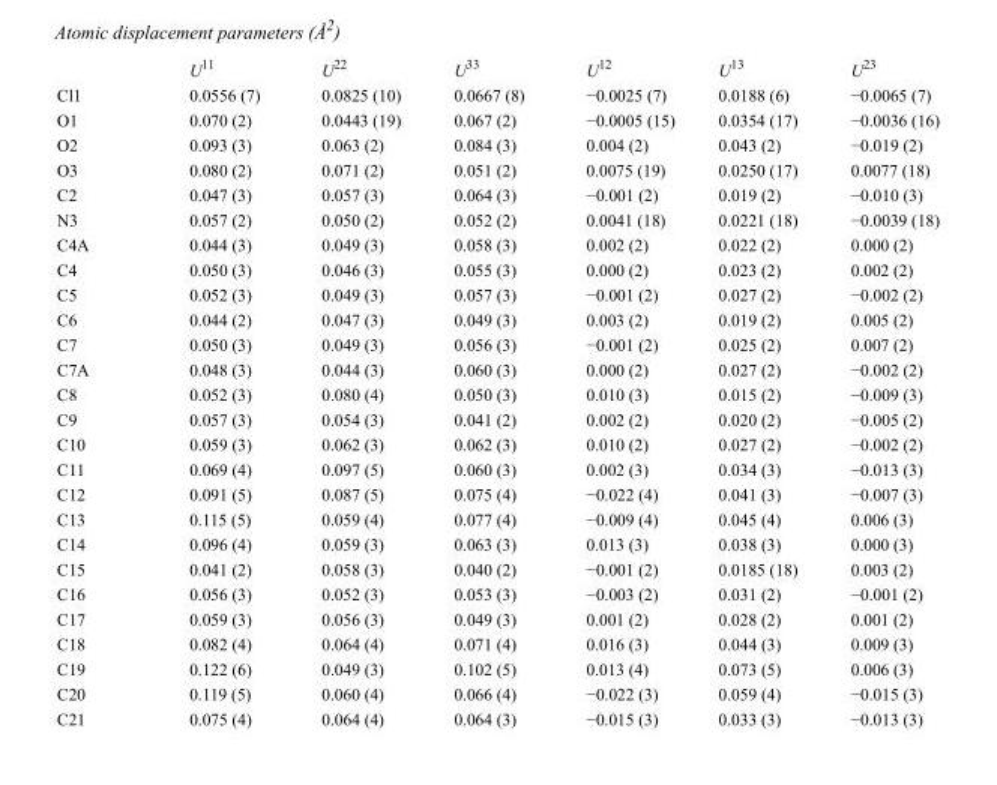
<table><thead><tr><td></td><td>U<sup>11</sup></td><td>U<sup>22</sup></td><td>U<sup>33</sup></td><td>U<sup>12</sup></td><td>U<sup>13</sup></td><td>U<sup>23</sup></td></tr></thead><tbody><tr><td>Cl1</td><td>0.0556 (7)</td><td>0.0825 (10)</td><td>0.0667 (8)</td><td>−0.0025 (7)</td><td>0.0188 (6)</td><td>−0.0065 (7)</td></tr><tr><td>O1</td><td>0.070 (2)</td><td>0.0443 (19)</td><td>0.067 (2)</td><td>−0.0005 (15)</td><td>0.0354 (17)</td><td>−0.0036 (16)</td></tr><tr><td>O2</td><td>0.093 (3)</td><td>0.063 (2)</td><td>0.084 (3)</td><td>0.004 (2)</td><td>0.043 (2)</td><td>−0.019 (2)</td></tr><tr><td>O3</td><td>0.080 (2)</td><td>0.071 (2)</td><td>0.051 (2)</td><td>0.0075 (19)</td><td>0.0250 (17)</td><td>0.0077 (18)</td></tr><tr><td>C2</td><td>0.047 (3)</td><td>0.057 (3)</td><td>0.064 (3)</td><td>−0.001 (2)</td><td>0.019 (2)</td><td>−0.010 (3)</td></tr><tr><td>N3</td><td>0.057 (2)</td><td>0.050 (2)</td><td>0.052 (2)</td><td>0.0041 (18)</td><td>0.0221 (18)</td><td>−0.0039 (18)</td></tr><tr><td>C4A</td><td>0.044 (3)</td><td>0.049 (3)</td><td>0.058 (3)</td><td>0.002 (2)</td><td>0.022 (2)</td><td>0.000 (2)</td></tr><tr><td>C4</td><td>0.050 (3)</td><td>0.046 (3)</td><td>0.055 (3)</td><td>0.000 (2)</td><td>0.023 (2)</td><td>0.002 (2)</td></tr><tr><td>C5</td><td>0.052 (3)</td><td>0.049 (3)</td><td>0.057 (3)</td><td>−0.001 (2)</td><td>0.027 (2)</td><td>−0.002 (2)</td></tr><tr><td>C6</td><td>0.044 (2)</td><td>0.047 (3)</td><td>0.049 (3)</td><td>0.003 (2)</td><td>0.019 (2)</td><td>0.005 (2)</td></tr><tr><td>C7</td><td>0.050 (3)</td><td>0.049 (3)</td><td>0.056 (3)</td><td>−0.001 (2)</td><td>0.025 (2)</td><td>0.007 (2)</td></tr><tr><td>C7A</td><td>0.048 (3)</td><td>0.044 (3)</td><td>0.060 (3)</td><td>0.000 (2)</td><td>0.027 (2)</td><td>−0.002 (2)</td></tr><tr><td>C8</td><td>0.052 (3)</td><td>0.080 (4)</td><td>0.050 (3)</td><td>0.010 (3)</td><td>0.015 (2)</td><td>−0.009 (3)</td></tr><tr><td>C9</td><td>0.057 (3)</td><td>0.054 (3)</td><td>0.041 (2)</td><td>0.002 (2)</td><td>0.020 (2)</td><td>−0.005 (2)</td></tr><tr><td>C10</td><td>0.059 (3)</td><td>0.062 (3)</td><td>0.062 (3)</td><td>0.010 (2)</td><td>0.027 (2)</td><td>−0.002 (2)</td></tr><tr><td>C11</td><td>0.069 (4)</td><td>0.097 (5)</td><td>0.060 (3)</td><td>0.002 (3)</td><td>0.034 (3)</td><td>−0.013 (3)</td></tr><tr><td>C12</td><td>0.091 (5)</td><td>0.087 (5)</td><td>0.075 (4)</td><td>−0.022 (4)</td><td>0.041 (3)</td><td>−0.007 (3)</td></tr><tr><td>C13</td><td>0.115 (5)</td><td>0.059 (4)</td><td>0.077 (4)</td><td>−0.009 (4)</td><td>0.045 (4)</td><td>0.006 (3)</td></tr><tr><td>C14</td><td>0.096 (4)</td><td>0.059 (3)</td><td>0.063 (3)</td><td>0.013 (3)</td><td>0.038 (3)</td><td>0.000 (3)</td></tr><tr><td>C15</td><td>0.041 (2)</td><td>0.058 (3)</td><td>0.040 (2)</td><td>−0.001 (2)</td><td>0.0185 (18)</td><td>0.003 (2)</td></tr><tr><td>C16</td><td>0.056 (3)</td><td>0.052 (3)</td><td>0.053 (3)</td><td>−0.003 (2)</td><td>0.031 (2)</td><td>−0.001 (2)</td></tr><tr><td>C17</td><td>0.059 (3)</td><td>0.056 (3)</td><td>0.049 (3)</td><td>0.001 (2)</td><td>0.028 (2)</td><td>0.001 (2)</td></tr><tr><td>C18</td><td>0.082 (4)</td><td>0.064 (4)</td><td>0.071 (4)</td><td>0.016 (3)</td><td>0.044 (3)</td><td>0.009 (3)</td></tr><tr><td>C19</td><td>0.122 (6)</td><td>0.049 (3)</td><td>0.102 (5)</td><td>0.013 (4)</td><td>0.073 (5)</td><td>0.006 (3)</td></tr><tr><td>C20</td><td>0.119 (5)</td><td>0.060 (4)</td><td>0.066 (4)</td><td>−0.022 (3)</td><td>0.059 (4)</td><td>−0.015 (3)</td></tr><tr><td>C21</td><td>0.075 (4)</td><td>0.064 (4)</td><td>0.064 (3)</td><td>−0.015 (3)</td><td>0.033 (3)</td><td>−0.013 (3)</td></tr></tbody></table>